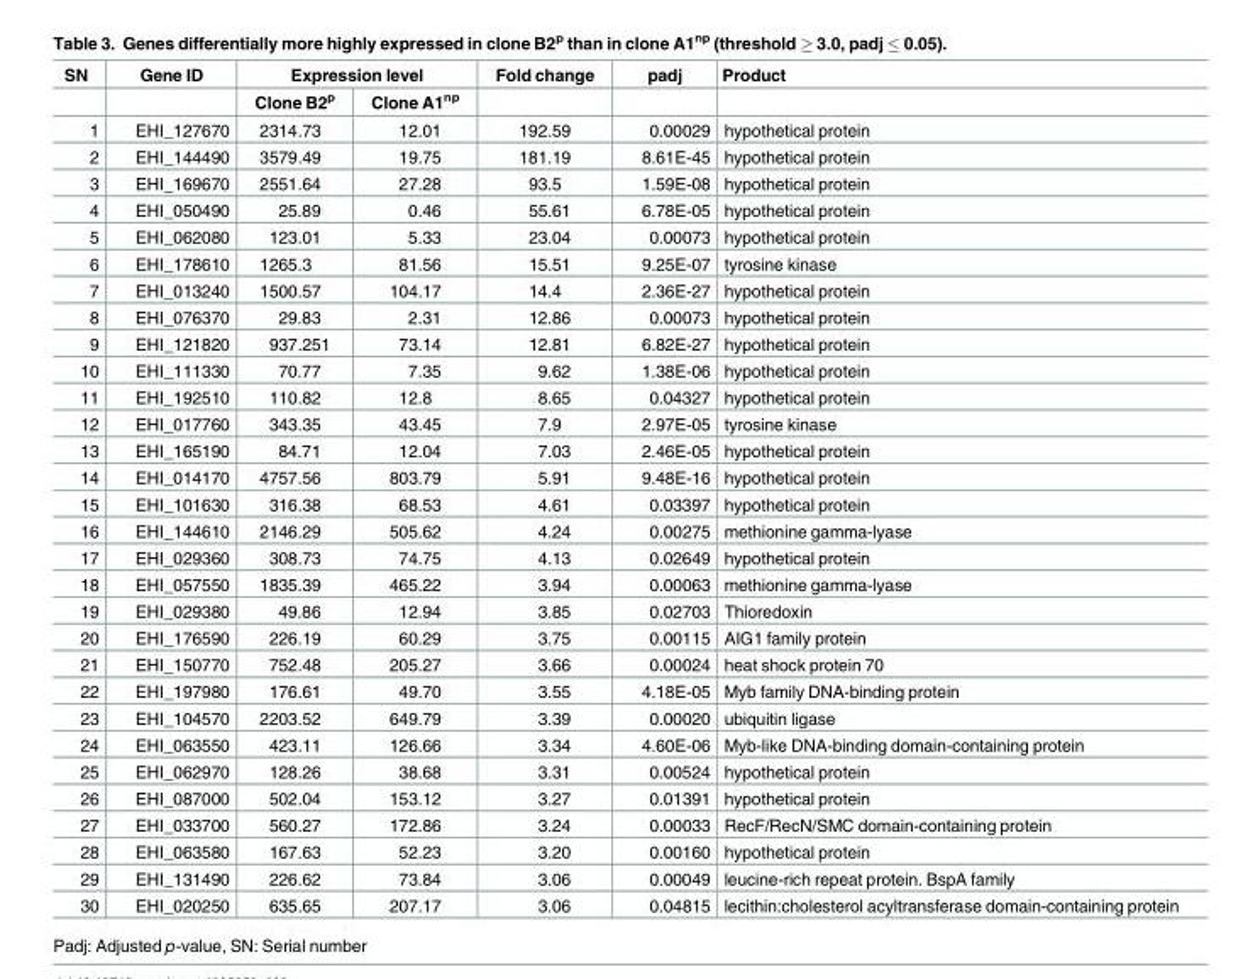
<table><thead><tr><td rowspan="2">SN</td><td rowspan="2">Gene ID</td><td colspan="2">Expression level</td><td rowspan="2">Fold change</td><td rowspan="2">padj</td><td rowspan="2">Product</td></tr><tr><td>Clone B2<sup>p</sup></td><td>Clone A1<sup>np</sup></td></tr></thead><tbody><tr><td>1</td><td>EHI_127670</td><td>2314.73</td><td>12.01</td><td>192.59</td><td>0.00029</td><td>hypothetical protein</td></tr><tr><td>2</td><td>EHI_144490</td><td>3579.49</td><td>19.75</td><td>181.19</td><td>8.61E-45</td><td>hypothetical protein</td></tr><tr><td>3</td><td>EHI_169670</td><td>2551.64</td><td>27.28</td><td>93.5</td><td>1.59E-08</td><td>hypothetical protein</td></tr><tr><td>4</td><td>EHI_050490</td><td>25.89</td><td>0.46</td><td>55.61</td><td>6.78E-05</td><td>hypothetical protein</td></tr><tr><td>5</td><td>EHI_062080</td><td>123.01</td><td>5.33</td><td>23.04</td><td>0.00073</td><td>hypothetical protein</td></tr><tr><td>6</td><td>EHI_178610</td><td>1265.3</td><td>81.56</td><td>15.51</td><td>9.25E-07</td><td>tyrosine kinase</td></tr><tr><td>7</td><td>EHI_013240</td><td>1500.57</td><td>104.17</td><td>14.4</td><td>2.36E-27</td><td>hypothetical protein</td></tr><tr><td>8</td><td>EHI_076370</td><td>29.83</td><td>2.31</td><td>12.86</td><td>0.00073</td><td>hypothetical protein</td></tr><tr><td>9</td><td>EHI_121820</td><td>937.251</td><td>73.14</td><td>12.81</td><td>6.82E-27</td><td>hypothetical protein</td></tr><tr><td>10</td><td>EHI_111330</td><td>70.77</td><td>7.35</td><td>9.62</td><td>1.38E-06</td><td>hypothetical protein</td></tr><tr><td>11</td><td>EHI_192510</td><td>110.82</td><td>12.8</td><td>8.65</td><td>0.04327</td><td>hypothetical protein</td></tr><tr><td>12</td><td>EHI_017760</td><td>343.35</td><td>43.45</td><td>7.9</td><td>2.97E-05</td><td>tyrosine kinase</td></tr><tr><td>13</td><td>EHI_165190</td><td>84.71</td><td>12.04</td><td>7.03</td><td>2.46E-05</td><td>hypothetical protein</td></tr><tr><td>14</td><td>EHI_014170</td><td>4757.56</td><td>803.79</td><td>5.91</td><td>9.48E-16</td><td>hypothetical protein</td></tr><tr><td>15</td><td>EHI_101630</td><td>316.38</td><td>68.53</td><td>4.61</td><td>0.03397</td><td>hypothetical protein</td></tr><tr><td>16</td><td>EHI_144610</td><td>2146.29</td><td>505.62</td><td>4.24</td><td>0.00275</td><td>methionine gamma-lyase</td></tr><tr><td>17</td><td>EHI_029360</td><td>308.73</td><td>74.75</td><td>4.13</td><td>0.02649</td><td>hypothetical protein</td></tr><tr><td>18</td><td>EHI_057550</td><td>1835.39</td><td>465.22</td><td>3.94</td><td>0.00063</td><td>methionine gamma-lyase</td></tr><tr><td>19</td><td>EHI_029380</td><td>49.86</td><td>12.94</td><td>3.85</td><td>0.02703</td><td>Thioredoxin</td></tr><tr><td>20</td><td>EHI_176590</td><td>226.19</td><td>60.29</td><td>3.75</td><td>0.00115</td><td>AIG1 family protein</td></tr><tr><td>21</td><td>EHI_150770</td><td>752.48</td><td>205.27</td><td>3.66</td><td>0.00024</td><td>heat shock protein 70</td></tr><tr><td>22</td><td>EHI_197980</td><td>176.61</td><td>49.70</td><td>3.55</td><td>4.18E-05</td><td>Myb family DNA-binding protein</td></tr><tr><td>23</td><td>EHI_104570</td><td>2203.52</td><td>649.79</td><td>3.39</td><td>0.00020</td><td>ubiquitin ligase</td></tr><tr><td>24</td><td>EHI_063550</td><td>423.11</td><td>126.66</td><td>3.34</td><td>4.60E-06</td><td>Myb-like DNA-binding domain-containing protein</td></tr><tr><td>25</td><td>EHI_062970</td><td>128.26</td><td>38.68</td><td>3.31</td><td>0.00524</td><td>hypothetical protein</td></tr><tr><td>26</td><td>EHI_087000</td><td>502.04</td><td>153.12</td><td>3.27</td><td>0.01391</td><td>hypothetical protein</td></tr><tr><td>27</td><td>EHI_033700</td><td>560.27</td><td>172.86</td><td>3.24</td><td>0.00033</td><td>RecF/RecN/SMC domain-containing protein</td></tr><tr><td>28</td><td>EHI_063580</td><td>167.63</td><td>52.23</td><td>3.20</td><td>0.00160</td><td>hypothetical protein</td></tr><tr><td>29</td><td>EHI_131490</td><td>226.62</td><td>73.84</td><td>3.06</td><td>0.00049</td><td>leucine-rich repeat protein. BspA family</td></tr><tr><td>30</td><td>EHI_020250</td><td>635.65</td><td>207.17</td><td>3.06</td><td>0.04815</td><td>lecithin:cholesterol acyltransferase domain-containing protein</td></tr></tbody></table>